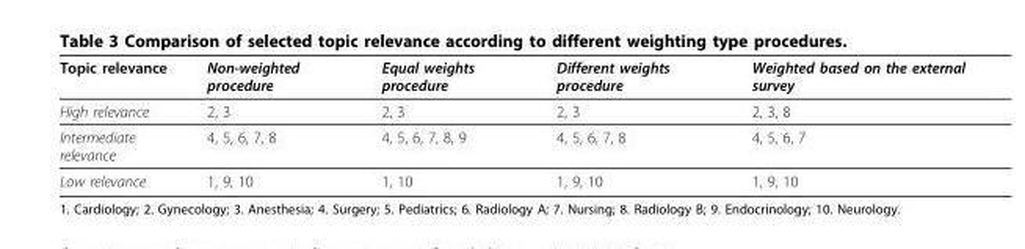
<table><thead><tr><td>Topic relevance</td><td>Non-weighted procedure</td><td>Equal weights procedure</td><td>Different weights procedure</td><td>Weighted based on the external survey</td></tr></thead><tbody><tr><td>High relevance</td><td>2, 3</td><td>2, 3</td><td>2, 3</td><td>2, 3, 8</td></tr><tr><td>Intermediate relevance</td><td>4, 5, 6, 7, 8</td><td>4, 5, 6, 7, 8, 9</td><td>4, 5, 6, 7, 8</td><td>4, 5, 6, 7</td></tr><tr><td>Low relevance</td><td>1, 9, 10</td><td>1, 10</td><td>1, 9, 10</td><td>1, 9, 10</td></tr></tbody></table>